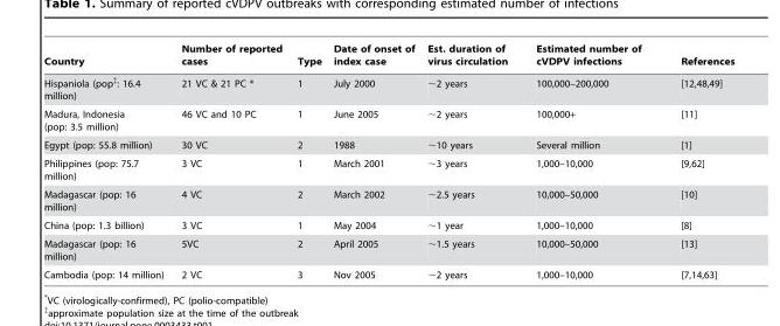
<table><thead><tr><td>Country</td><td>Number of reported cases</td><td>Type</td><td>Date of onset of index case</td><td>Est. duration of virus circulation</td><td>Estimated number of cVDPV infections</td><td>References</td></tr></thead><tbody><tr><td>Hispaniola (pop‡: 16.4 million)</td><td>21 VC &amp; 21 PC *</td><td>1</td><td>July 2000</td><td>∼2 years</td><td>100,000–200,000</td><td>[12,48,49]</td></tr><tr><td>Madura, Indonesia (pop: 3.5 million)</td><td>46 VC and 10 PC</td><td>1</td><td>June 2005</td><td>∼2 years</td><td>100,000+</td><td>[11]</td></tr><tr><td>Egypt (pop: 55.8 million)</td><td>30 VC</td><td>2</td><td>1988</td><td>∼10 years</td><td>Several million</td><td>[1]</td></tr><tr><td>Philippines (pop: 75.7 million)</td><td>3 VC</td><td>1</td><td>March 2001</td><td>∼3 years</td><td>1,000–10,000</td><td>[9,62]</td></tr><tr><td>Madagascar (pop: 16 million)</td><td>4 VC</td><td>2</td><td>March 2002</td><td>∼2.5 years</td><td>10,000–50,000</td><td>[10]</td></tr><tr><td>China (pop: 1.3 billion)</td><td>3 VC</td><td>1</td><td>May 2004</td><td>∼1 year</td><td>1,000–10,000</td><td>[8]</td></tr><tr><td>Madagascar (pop: 16 million)</td><td>5VC</td><td>2</td><td>April 2005</td><td>∼1.5 years</td><td>10,000–50,000</td><td>[13]</td></tr><tr><td>Cambodia (pop: 14 million)</td><td>2 VC</td><td>3</td><td>Nov 2005</td><td>∼2 years</td><td>1,000–10,000</td><td>[7,14,63]</td></tr></tbody></table>